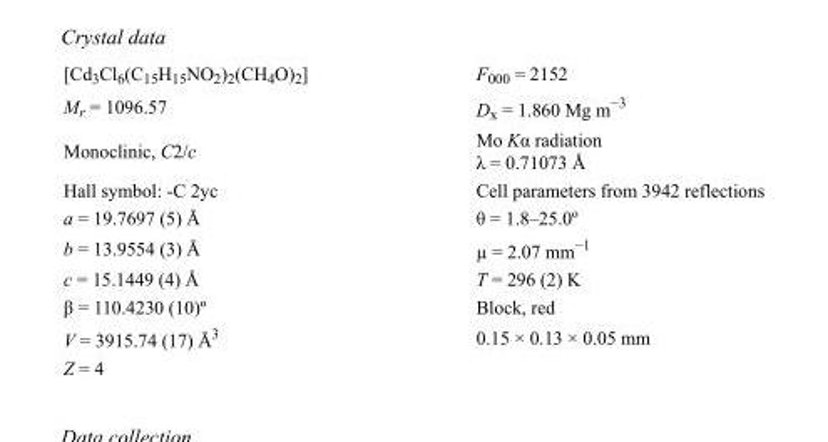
<table><tbody><tr><td>[Cd<sub>3</sub>Cl<sub>6</sub>(C<sub>15</sub>H<sub>15</sub>NO<sub>2</sub>)<sub>2</sub>(CH<sub>4</sub>O)<sub>2</sub>]</td><td>F000 = 2152</td></tr><tr><td>M<sub>r</sub> = 1096.57</td><td>D<sub>x</sub> = 1.860 Mg m<sup>−3</sup></td></tr><tr><td>Monoclinic, C2/c</td><td>Mo Kα radiation λ = 0.71073 Å</td></tr><tr><td>Hall symbol: -C 2yc</td><td>Cell parameters from 3942 reflections</td></tr><tr><td>a = 19.7697 (5) Å</td><td>θ = 1.8–25.0º</td></tr><tr><td>b = 13.9554 (3) Å</td><td>µ = 2.07 mm<sup>−1</sup></td></tr><tr><td>c = 15.1449 (4) Å</td><td>T = 296 (2) K</td></tr><tr><td>β = 110.4230 (10)º</td><td>Block, red</td></tr><tr><td>V = 3915.74 (17) Å<sup>3</sup></td><td>0.15 × 0.13 × 0.05 mm</td></tr><tr><td>Z = 4</td><td></td></tr></tbody></table>